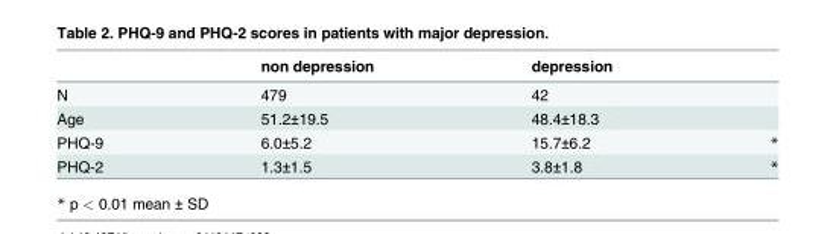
<table><thead><tr><td></td><td>non depression</td><td>depression</td><td></td></tr></thead><tbody><tr><td>N</td><td>479</td><td>42</td><td></td></tr><tr><td>Age</td><td>51.2±19.5</td><td>48.4±18.3</td><td></td></tr><tr><td>PHQ-9</td><td>6.0±5.2</td><td>15.7±6.2</td><td>*</td></tr><tr><td>PHQ-2</td><td>1.3±1.5</td><td>3.8±1.8</td><td>*</td></tr></tbody></table>